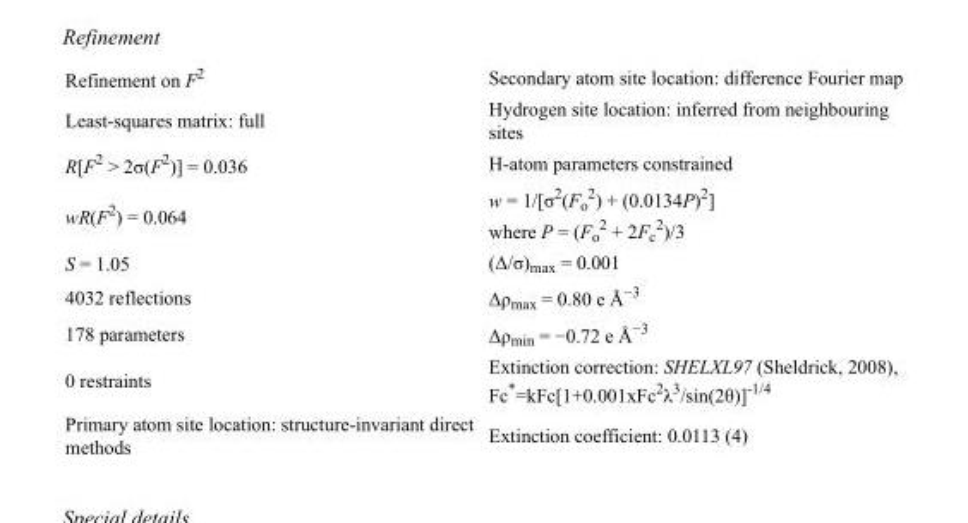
<table><tbody><tr><td>Refinement on F<sup>2</sup></td><td>Secondary atom site location: difference Fourier map</td></tr><tr><td>Least-squares matrix: full</td><td>Hydrogen site location: inferred from neighbouring sites</td></tr><tr><td>R[F<sup>2</sup> &gt; 2σ(F<sup>2</sup>)] = 0.036</td><td>H-atom parameters constrained</td></tr><tr><td>wR(F<sup>2</sup>) = 0.064</td><td>w = 1/[σ<sup>2</sup>(F<sub>o</sub> <sup>2</sup>) + (0.0134P)<sup>2</sup>] where P = (F<sub>o</sub> <sup>2</sup> + 2F<sub>c</sub> <sup>2</sup>)/3</td></tr><tr><td>S = 1.05</td><td>(Δ/σ)<sub>max</sub> = 0.001</td></tr><tr><td>4032 reflections</td><td>Δρ<sub>max</sub> = 0.80 e Å<sup>−3</sup></td></tr><tr><td>178 parameters</td><td>Δρ<sub>min</sub> = −0.72 e Å<sup>−3</sup></td></tr><tr><td>0 restraints</td><td>Extinction correction: SHELXL97 (Sheldrick, 2008), Fc*=kFc[1+0.001xFc<sup>2</sup>λ<sup>3</sup>/sin(2θ)]<sup>-1/4</sup></td></tr><tr><td>Primary atom site location: structure-invariant direct methods</td><td>Extinction coefficient: 0.0113 (4)</td></tr></tbody></table>